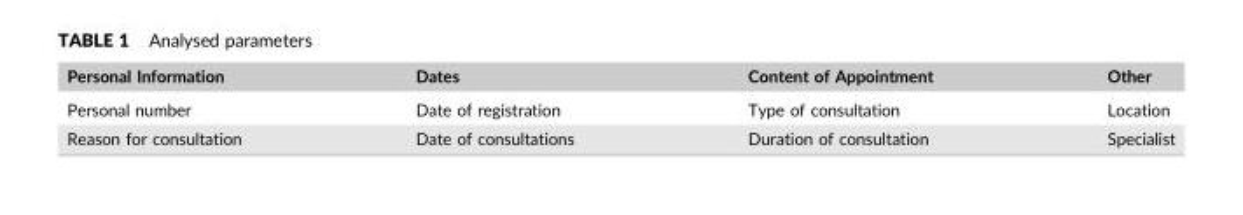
<table><thead><tr><td>Personal Information</td><td>Dates</td><td>Content of Appointment</td><td>Other</td></tr></thead><tbody><tr><td>Personal number</td><td>Date of registration</td><td>Type of consultation</td><td>Location</td></tr><tr><td>Reason for consultation</td><td>Date of consultations</td><td>Duration of consultation</td><td>Specialist</td></tr></tbody></table>